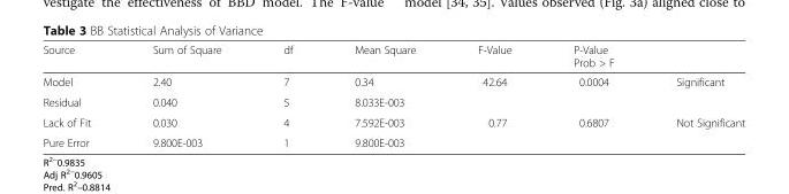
<table><thead><tr><td>Source</td><td>Sum of Square</td><td>df</td><td>Mean Square</td><td>F-Value</td><td>P-Value Prob &gt; F</td><td></td></tr></thead><tbody><tr><td>Model</td><td>2.40</td><td>7</td><td>0.34</td><td>42.64</td><td>0.0004</td><td>Significant</td></tr><tr><td>Residual</td><td>0.040</td><td>5</td><td>8.033E-003</td><td></td><td></td><td></td></tr><tr><td>Lack of Fit</td><td>0.030</td><td>4</td><td>7.592E-003</td><td>0.77</td><td>0.6807</td><td>Not Significant</td></tr><tr><td>Pure Error</td><td>9.800E-003</td><td>1</td><td>9.800E-003</td><td></td><td></td><td></td></tr></tbody></table>